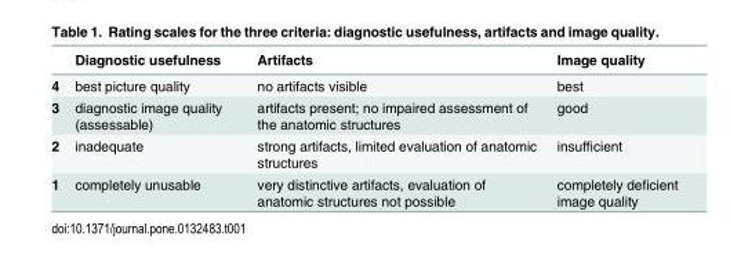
<table><thead><tr><td></td><td>Diagnostic usefulness</td><td>Artifacts</td><td>Image quality</td></tr></thead><tbody><tr><td>4</td><td>best picture quality</td><td>no artifacts visible</td><td>best</td></tr><tr><td>3</td><td>diagnostic image quality (assessable)</td><td>artifacts present; no impaired assessment of the anatomic structures</td><td>good</td></tr><tr><td>2</td><td>inadequate</td><td>strong artifacts, limited evaluation of anatomic structures</td><td>insufficient</td></tr><tr><td>1</td><td>completely unusable</td><td>very distinctive artifacts, evaluation of anatomic structures not possible</td><td>completely deficient image quality</td></tr></tbody></table>